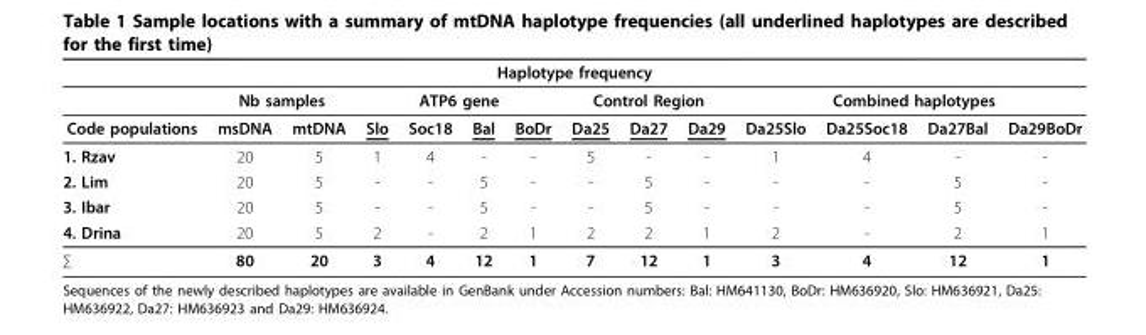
<table><thead><tr><td colspan="14">Haplotype frequency</td></tr><tr><td rowspan="2">Code populations</td><td colspan="2">Nb samples</td><td colspan="4">ATP6 gene</td><td colspan="3">Control Region</td><td colspan="4">Combined haplotypes</td></tr><tr><td>msDNA</td><td>mtDNA</td><td>Slo</td><td>Soc18</td><td>Bal</td><td>BoDr</td><td>Da25</td><td>Da27</td><td>Da29</td><td>Da25Slo</td><td>Da25Soc18</td><td>Da27Bal</td><td>Da29BoDr</td></tr></thead><tbody><tr><td>1. Rzav</td><td>20</td><td>5</td><td>1</td><td>4</td><td>-</td><td>-</td><td>5</td><td>-</td><td>-</td><td>1</td><td>4</td><td>-</td><td>-</td></tr><tr><td>2. Lim</td><td>20</td><td>5</td><td>-</td><td>-</td><td>5</td><td>-</td><td>-</td><td>5</td><td>-</td><td>-</td><td>-</td><td>5</td><td>-</td></tr><tr><td>3. Ibar</td><td>20</td><td>5</td><td>-</td><td>-</td><td>5</td><td>-</td><td>-</td><td>5</td><td>-</td><td>-</td><td>-</td><td>5</td><td>-</td></tr><tr><td>4. Drina</td><td>20</td><td>5</td><td>2</td><td>-</td><td>2</td><td>1</td><td>2</td><td>2</td><td>1</td><td>2</td><td>-</td><td>2</td><td>1</td></tr><tr><td>∑</td><td>80</td><td>20</td><td>3</td><td>4</td><td>12</td><td>1</td><td>7</td><td>12</td><td>1</td><td>3</td><td>4</td><td>12</td><td>1</td></tr></tbody></table>